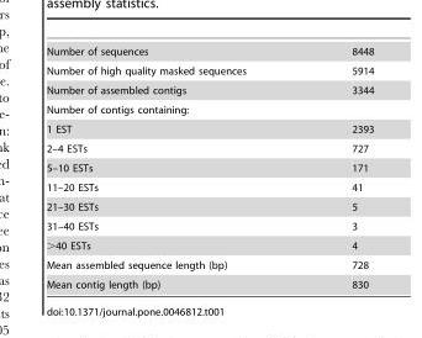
<table><tbody><tr><td>Number of sequences</td><td>8448</td></tr><tr><td>Number of high quality masked sequences</td><td>5914</td></tr><tr><td>Number of assembled contigs</td><td>3344</td></tr><tr><td colspan="2">Number of contigs containing:</td></tr><tr><td>1 EST</td><td>2393</td></tr><tr><td>2–4 ESTs</td><td>727</td></tr><tr><td>5–10 ESTs</td><td>171</td></tr><tr><td>11–20 ESTs</td><td>41</td></tr><tr><td>21–30 ESTs</td><td>5</td></tr><tr><td>31–40 ESTs</td><td>3</td></tr><tr><td>&gt;40 ESTs</td><td>4</td></tr><tr><td>Mean assembled sequence length (bp)</td><td>728</td></tr><tr><td>Mean contig length (bp)</td><td>830</td></tr></tbody></table>